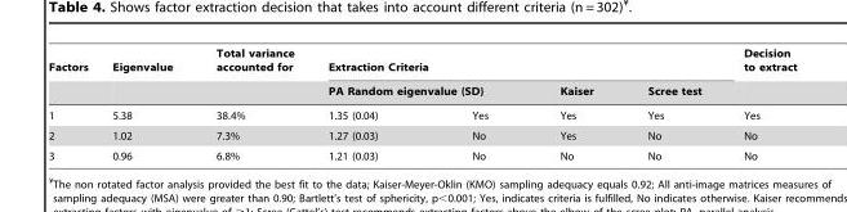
<table><thead><tr><td rowspan="3">Factors 1</td><td rowspan="3">Eigenvalue 5.38</td><td rowspan="3">Total variance accounted for 38.4%</td><td colspan="4">Extraction Criteria</td><td rowspan="3">Decision to extract Yes</td></tr><tr><td colspan="2">PA Random eigenvalue (SD)</td><td rowspan="2">Kaiser Yes</td><td rowspan="2">Scree test Yes</td></tr><tr><td>1.35 (0.04)</td><td>Yes</td></tr></thead><tbody><tr><td>2</td><td>1.02</td><td>7.3%</td><td>1.27 (0.03)</td><td>No</td><td>Yes</td><td>No</td><td>No</td></tr><tr><td>3</td><td>0.96</td><td>6.8%</td><td>1.21 (0.03)</td><td>No</td><td>No</td><td>No</td><td>No</td></tr></tbody></table>